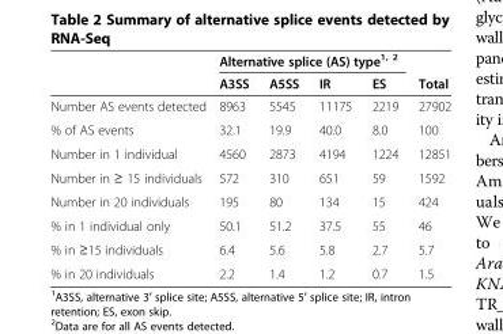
<table><thead><tr><td rowspan="2"></td><td colspan="4">Alternative splice (AS) type<sup>1, 2</sup></td><td rowspan="2">Total</td></tr><tr><td>A3SS</td><td>A5SS</td><td>IR</td><td>ES</td></tr></thead><tbody><tr><td>Number AS events detected</td><td>8963</td><td>5545</td><td>11175</td><td>2219</td><td>27902</td></tr><tr><td>% of AS events</td><td>32.1</td><td>19.9</td><td>40.0</td><td>8.0</td><td>100</td></tr><tr><td>Number in 1 individual</td><td>4560</td><td>2873</td><td>4194</td><td>1224</td><td>12851</td></tr><tr><td>Number in ≥ 15 individuals</td><td>572</td><td>310</td><td>651</td><td>59</td><td>1592</td></tr><tr><td>Number in 20 individuals</td><td>195</td><td>80</td><td>134</td><td>15</td><td>424</td></tr><tr><td>% in 1 individual only</td><td>50.1</td><td>51.2</td><td>37.5</td><td>55</td><td>46</td></tr><tr><td>% in ≥15 individuals</td><td>6.4</td><td>5.6</td><td>5.8</td><td>2.7</td><td>5.7</td></tr><tr><td>% in 20 individuals</td><td>2.2</td><td>1.4</td><td>1.2</td><td>0.7</td><td>1.5</td></tr></tbody></table>